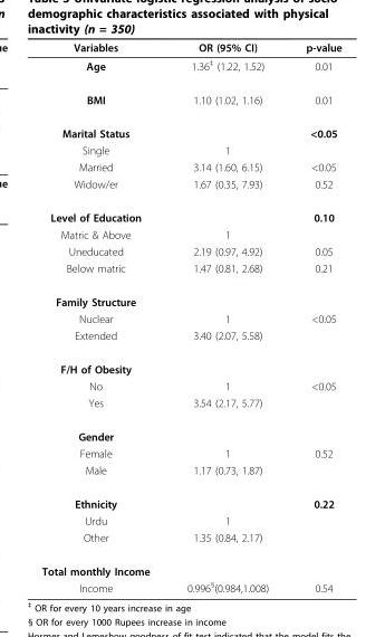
<table><thead><tr><td>Variables</td><td>OR (95% CI)</td><td>p-value</td></tr></thead><tbody><tr><td>Age</td><td>1.36<sup>‡</sup> (1.22, 1.52)</td><td>0.01</td></tr><tr><td>BMI</td><td>1.10 (1.02, 1.16)</td><td>0.01</td></tr><tr><td>Marital Status</td><td></td><td>&lt;0.05</td></tr><tr><td>Single</td><td>1</td><td></td></tr><tr><td>Married</td><td>3.14 (1.60, 6.15)</td><td>&lt;0.05</td></tr><tr><td>Widow/er</td><td>1.67 (0.35, 7.93)</td><td>0.52</td></tr><tr><td>Level of Education</td><td></td><td>0.10</td></tr><tr><td>Matric &amp; Above</td><td>1</td><td></td></tr><tr><td>Uneducated</td><td>2.19 (0.97, 4.92)</td><td>0.05</td></tr><tr><td>Below matric</td><td>1.47 (0.81, 2.68)</td><td>0.21</td></tr><tr><td colspan="3">Family Structure</td></tr><tr><td>Nuclear</td><td>1</td><td>&lt;0.05</td></tr><tr><td>Extended</td><td>3.40 (2.07, 5.58)</td><td></td></tr><tr><td colspan="3">F/H of Obesity</td></tr><tr><td>No</td><td>1</td><td>&lt;0.05</td></tr><tr><td>Yes</td><td>3.54 (2.17, 5.77)</td><td></td></tr><tr><td colspan="3">Gender</td></tr><tr><td>Female</td><td>1</td><td>0.52</td></tr><tr><td>Male</td><td>1.17 (0.73, 1.87)</td><td></td></tr><tr><td>Ethnicity</td><td></td><td>0.22</td></tr><tr><td>Urdu</td><td>1</td><td></td></tr><tr><td>Other</td><td>1.35 (0.84, 2.17)</td><td></td></tr><tr><td colspan="3">Total monthly Income</td></tr><tr><td>Income</td><td>0.996<sup>§</sup>(0.984,1.008)</td><td>0.54</td></tr></tbody></table>